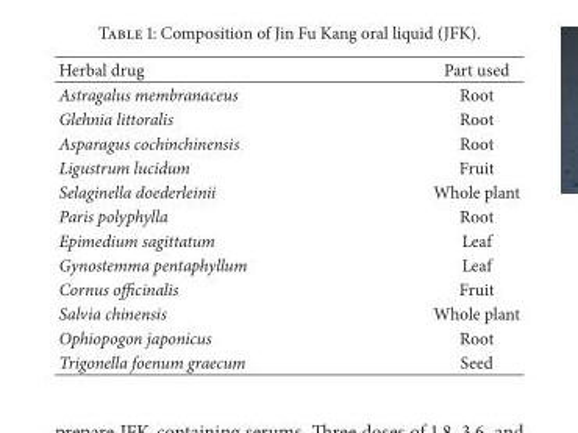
<table><thead><tr><td>Herbal drug</td><td>Part used</td></tr></thead><tbody><tr><td>Astragalus membranaceus</td><td>Root</td></tr><tr><td>Glehnia littoralis</td><td>Root</td></tr><tr><td>Asparagus cochinchinensis</td><td>Root</td></tr><tr><td>Ligustrum lucidum</td><td>Fruit</td></tr><tr><td>Selaginella doederleinii</td><td>Whole plant</td></tr><tr><td>Paris polyphylla</td><td>Root</td></tr><tr><td>Epimedium sagittatum</td><td>Leaf</td></tr><tr><td>Gynostemma pentaphyllum</td><td>Leaf</td></tr><tr><td>Cornus officinalis</td><td>Fruit</td></tr><tr><td>Salvia chinensis</td><td>Whole plant</td></tr><tr><td>Ophiopogon japonicus</td><td>Root</td></tr><tr><td>Trigonella foenum graecum</td><td>Seed</td></tr></tbody></table>